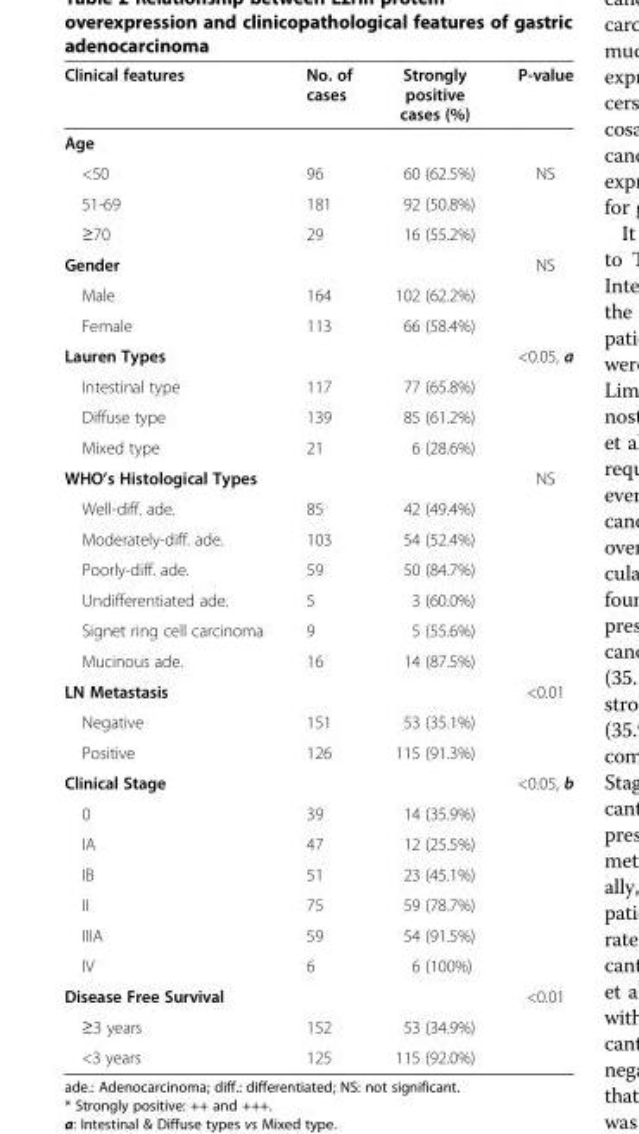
<table><thead><tr><td>Clinical features</td><td>No. of cases</td><td>Strongly positive cases (%)</td><td>P-value</td></tr></thead><tbody><tr><td colspan="4">Age</td></tr><tr><td>&lt;50</td><td>96</td><td>60 (62.5%)</td><td rowspan="3">NS</td></tr><tr><td>51-69</td><td>181</td><td>92 (50.8%)</td></tr><tr><td>≥70</td><td>29</td><td>16 (55.2%)</td></tr><tr><td colspan="3">Gender</td><td rowspan="3">NS</td></tr><tr><td>Male</td><td>164</td><td>102 (62.2%)</td></tr><tr><td>Female</td><td>113</td><td>66 (58.4%)</td></tr><tr><td colspan="3">Lauren Types</td><td rowspan="4">&lt;0.05, a</td></tr><tr><td>Intestinal type</td><td>117</td><td>77 (65.8%)</td></tr><tr><td>Diffuse type</td><td>139</td><td>85 (61.2%)</td></tr><tr><td>Mixed type</td><td>21</td><td>6 (28.6%)</td></tr><tr><td colspan="3">WHO’s Histological Types</td><td rowspan="7">NS</td></tr><tr><td>Well-diff. ade.</td><td>85</td><td>42 (49.4%)</td></tr><tr><td>Moderately-diff. ade.</td><td>103</td><td>54 (52.4%)</td></tr><tr><td>Poorly-diff. ade.</td><td>59</td><td>50 (84.7%)</td></tr><tr><td>Undifferentiated ade.</td><td>5</td><td>3 (60.0%)</td></tr><tr><td>Signet ring cell carcinoma</td><td>9</td><td>5 (55.6%)</td></tr><tr><td>Mucinous ade.</td><td>16</td><td>14 (87.5%)</td></tr><tr><td colspan="3">LN Metastasis</td><td rowspan="3">&lt;0.01</td></tr><tr><td>Negative</td><td>151</td><td>53 (35.1%)</td></tr><tr><td>Positive</td><td>126</td><td>115 (91.3%)</td></tr><tr><td colspan="3">Clinical Stage</td><td rowspan="7">&lt;0.05, b</td></tr><tr><td>0</td><td>39</td><td>14 (35.9%)</td></tr><tr><td>IA</td><td>47</td><td>12 (25.5%)</td></tr><tr><td>IB</td><td>51</td><td>23 (45.1%)</td></tr><tr><td>II</td><td>75</td><td>59 (78.7%)</td></tr><tr><td>IIIA</td><td>59</td><td>54 (91.5%)</td></tr><tr><td>IV</td><td>6</td><td>6 (100%)</td></tr><tr><td>Disease Free Survival</td><td></td><td></td><td>&lt;0.01</td></tr><tr><td>≥3 years</td><td>152</td><td>53 (34.9%)</td><td></td></tr><tr><td>&lt;3 years</td><td>125</td><td>115 (92.0%)</td><td></td></tr></tbody></table>